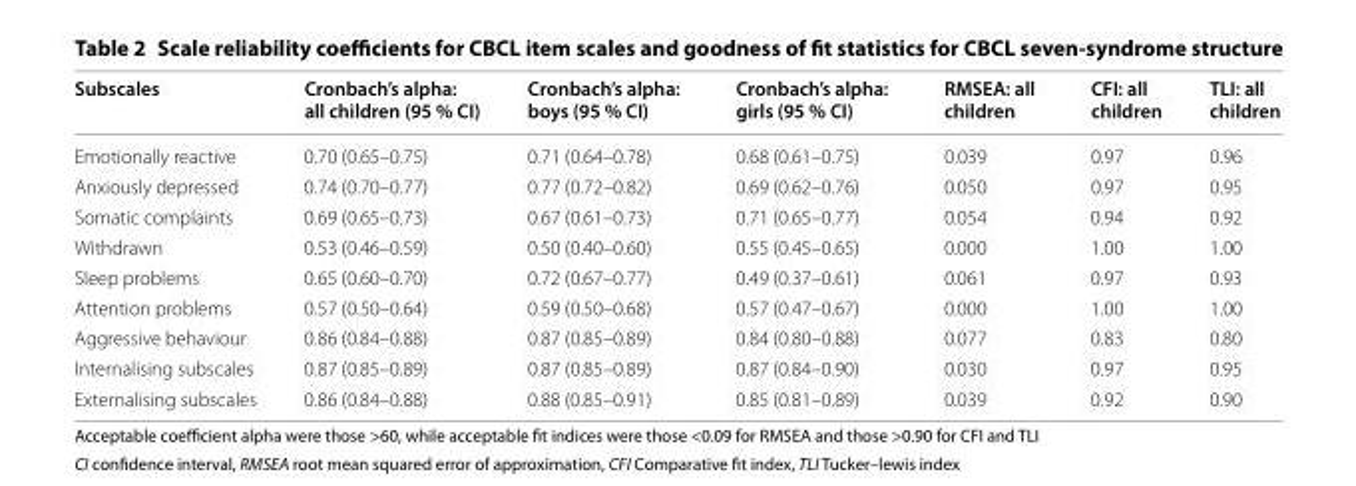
<table><thead><tr><td>Subscales</td><td>Cronbach’s alpha: all children (95 % CI)</td><td>Cronbach’s alpha: boys (95 % CI)</td><td>Cronbach’s alpha: girls (95 % CI)</td><td>RMSEA: all children</td><td>CFI: all children</td><td>TLI: all children</td></tr></thead><tbody><tr><td>Emotionally reactive</td><td>0.70 (0.65–0.75)</td><td>0.71 (0.64–0.78)</td><td>0.68 (0.61–0.75)</td><td>0.039</td><td>0.97</td><td>0.96</td></tr><tr><td>Anxiously depressed</td><td>0.74 (0.70–0.77)</td><td>0.77 (0.72–0.82)</td><td>0.69 (0.62–0.76)</td><td>0.050</td><td>0.97</td><td>0.95</td></tr><tr><td>Somatic complaints</td><td>0.69 (0.65–0.73)</td><td>0.67 (0.61–0.73)</td><td>0.71 (0.65–0.77)</td><td>0.054</td><td>0.94</td><td>0.92</td></tr><tr><td>Withdrawn</td><td>0.53 (0.46–0.59)</td><td>0.50 (0.40–0.60)</td><td>0.55 (0.45–0.65)</td><td>0.000</td><td>1.00</td><td>1.00</td></tr><tr><td>Sleep problems</td><td>0.65 (0.60–0.70)</td><td>0.72 (0.67–0.77)</td><td>0.49 (0.37–0.61)</td><td>0.061</td><td>0.97</td><td>0.93</td></tr><tr><td>Attention problems</td><td>0.57 (0.50–0.64)</td><td>0.59 (0.50–0.68)</td><td>0.57 (0.47–0.67)</td><td>0.000</td><td>1.00</td><td>1.00</td></tr><tr><td>Aggressive behaviour</td><td>0.86 (0.84–0.88)</td><td>0.87 (0.85–0.89)</td><td>0.84 (0.80–0.88)</td><td>0.077</td><td>0.83</td><td>0.80</td></tr><tr><td>Internalising subscales</td><td>0.87 (0.85–0.89)</td><td>0.87 (0.85–0.89)</td><td>0.87 (0.84–0.90)</td><td>0.030</td><td>0.97</td><td>0.95</td></tr><tr><td>Externalising subscales</td><td>0.86 (0.84–0.88)</td><td>0.88 (0.85–0.91)</td><td>0.85 (0.81–0.89)</td><td>0.039</td><td>0.92</td><td>0.90</td></tr></tbody></table>